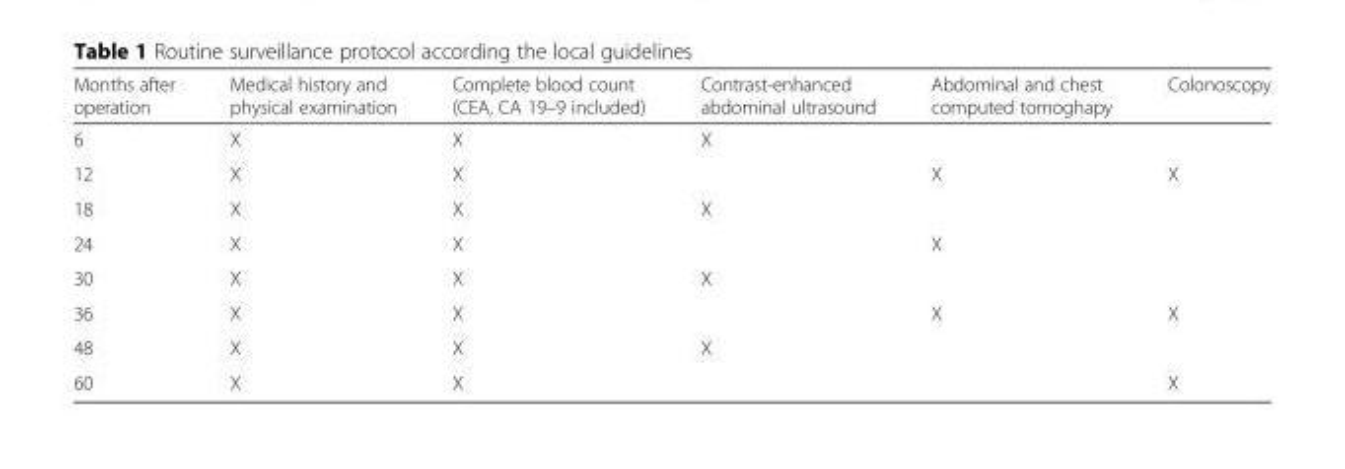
<table><thead><tr><td>Months after operation</td><td>Medical history and physical examination</td><td>Complete blood count (CEA, CA 19–9 included)</td><td>Contrast-enhanced abdominal ultrasound</td><td>Abdominal and chest computed tomoghapy</td><td>Colonoscopy</td></tr></thead><tbody><tr><td>6</td><td>X</td><td>X</td><td>X</td><td></td><td></td></tr><tr><td>12</td><td>X</td><td>X</td><td></td><td>X</td><td>X</td></tr><tr><td>18</td><td>X</td><td>X</td><td>X</td><td></td><td></td></tr><tr><td>24</td><td>X</td><td>X</td><td></td><td>X</td><td></td></tr><tr><td>30</td><td>X</td><td>X</td><td>X</td><td></td><td></td></tr><tr><td>36</td><td>X</td><td>X</td><td></td><td>X</td><td>X</td></tr><tr><td>48</td><td>X</td><td>X</td><td>X</td><td></td><td></td></tr><tr><td>60</td><td>X</td><td>X</td><td></td><td></td><td>X</td></tr></tbody></table>